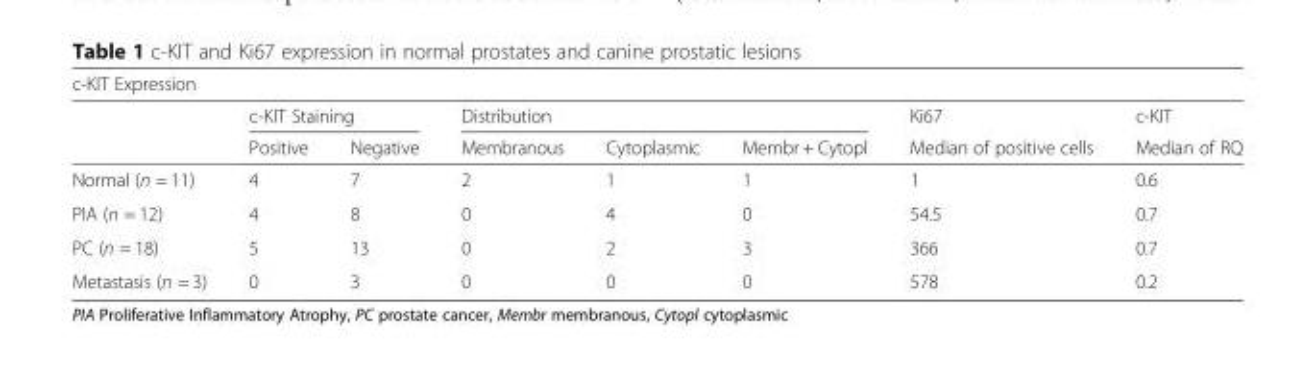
<table><thead><tr><td colspan="8">c-KIT Expression</td></tr><tr><td rowspan="2"></td><td colspan="2">c-KIT Staining</td><td colspan="3">Distribution</td><td rowspan="2">Ki67 Median of positive cells</td><td rowspan="2">c-KIT Median of RQ</td></tr><tr><td>Positive</td><td>Negative</td><td>Membranous</td><td>Cytoplasmic</td><td>Membr + Cytopl</td></tr></thead><tbody><tr><td>Normal (n = 11)</td><td>4</td><td>7</td><td>2</td><td>1</td><td>1</td><td>1</td><td>0.6</td></tr><tr><td>PIA (n = 12)</td><td>4</td><td>8</td><td>0</td><td>4</td><td>0</td><td>54.5</td><td>0.7</td></tr><tr><td>PC (n = 18)</td><td>5</td><td>13</td><td>0</td><td>2</td><td>3</td><td>366</td><td>0.7</td></tr><tr><td>Metastasis (n = 3)</td><td>0</td><td>3</td><td>0</td><td>0</td><td>0</td><td>578</td><td>0.2</td></tr></tbody></table>